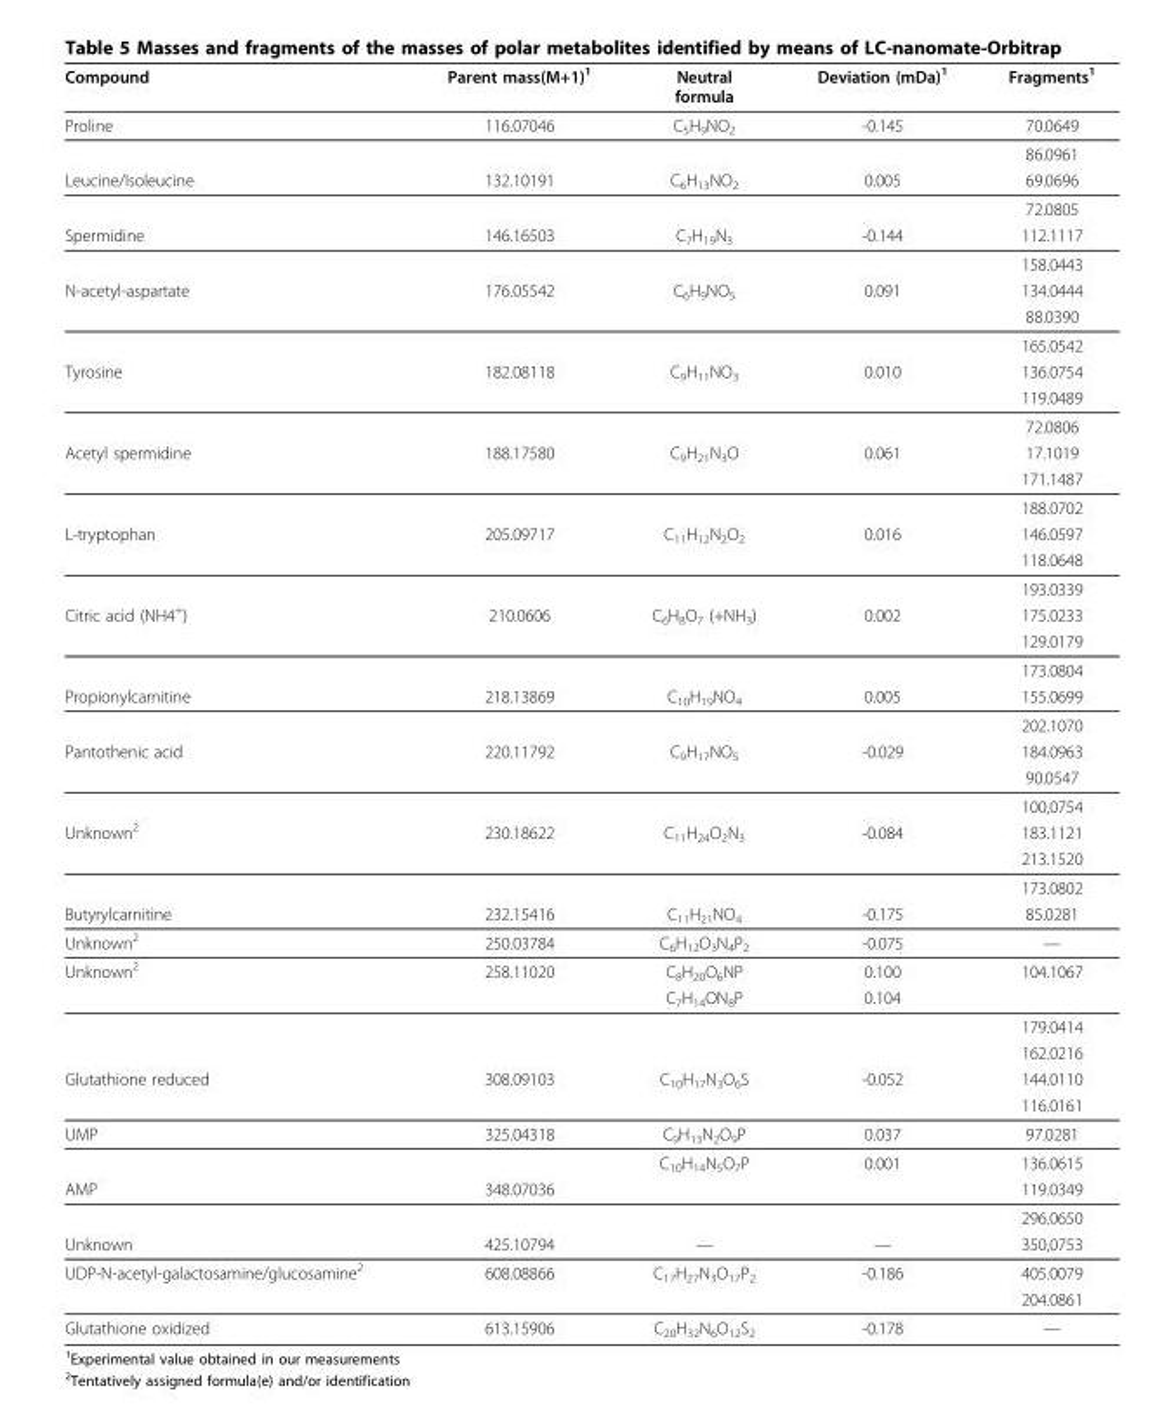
<table><thead><tr><td>Compound</td><td>Parent mass(M+1)<sup>1</sup></td><td>Neutral formula</td><td>Deviation (mDa)<sup>1</sup></td><td>Fragments<sup>1</sup></td></tr></thead><tbody><tr><td rowspan="2">Proline</td><td>116.07046</td><td>C<sub>5</sub>H<sub>9</sub>NO<sub>2</sub></td><td>-0.145</td><td>70.0649</td></tr><tr><td></td><td></td><td></td><td>86.0961</td></tr><tr><td rowspan="2">Leucine/Isoleucine</td><td>132.10191</td><td>C<sub>6</sub>H<sub>13</sub>NO<sub>2</sub></td><td>0.005</td><td>69.0696</td></tr><tr><td></td><td></td><td></td><td>72.0805</td></tr><tr><td rowspan="2">Spermidine</td><td>146.16503</td><td>C<sub>7</sub>H<sub>19</sub>N<sub>3</sub></td><td>-0.144</td><td>112.1117</td></tr><tr><td></td><td></td><td></td><td>158.0443</td></tr><tr><td rowspan="3">N-acetyl-aspartate</td><td>176.05542</td><td>C<sub>6</sub>H<sub>9</sub>NO<sub>5</sub></td><td>0.091</td><td>134.0444</td></tr><tr><td></td><td></td><td></td><td>88.0390</td></tr><tr><td></td><td></td><td></td><td>165.0542</td></tr><tr><td rowspan="3">Tyrosine</td><td>182.08118</td><td>C<sub>9</sub>H<sub>11</sub>NO<sub>3</sub></td><td>0.010</td><td>136.0754</td></tr><tr><td></td><td></td><td></td><td>119.0489</td></tr><tr><td></td><td></td><td></td><td>72.0806</td></tr><tr><td rowspan="3">Acetyl spermidine</td><td>188.17580</td><td>C<sub>9</sub>H<sub>21</sub>N<sub>3</sub>O</td><td>0.061</td><td>17.1019</td></tr><tr><td></td><td></td><td></td><td>171.1487</td></tr><tr><td></td><td></td><td></td><td>188.0702</td></tr><tr><td rowspan="3">L-tryptophan</td><td>205.09717</td><td>C<sub>11</sub>H<sub>12</sub>N<sub>2</sub>O<sub>2</sub></td><td>0.016</td><td>146.0597</td></tr><tr><td></td><td></td><td></td><td>118.0648</td></tr><tr><td></td><td></td><td></td><td>193.0339</td></tr><tr><td rowspan="3">Citric acid (NH4<sup>+</sup>)</td><td>210.0606</td><td>C<sub>6</sub>H<sub>8</sub>O<sub>7</sub> (+NH<sub>3</sub>)</td><td>0.002</td><td>175.0233</td></tr><tr><td></td><td></td><td></td><td>129.0179</td></tr><tr><td></td><td></td><td></td><td>173.0804</td></tr><tr><td rowspan="2">Propionylcarnitine</td><td>218.13869</td><td>C<sub>10</sub>H<sub>19</sub>NO<sub>4</sub></td><td>0.005</td><td>155.0699</td></tr><tr><td></td><td></td><td></td><td>202.1070</td></tr><tr><td rowspan="3">Pantothenic acid</td><td>220.11792</td><td>C<sub>9</sub>H<sub>17</sub>NO<sub>5</sub></td><td>-0.029</td><td>184.0963</td></tr><tr><td></td><td></td><td></td><td>90.0547</td></tr><tr><td></td><td></td><td></td><td>100,0754</td></tr><tr><td rowspan="3">Unknown<sup>2</sup></td><td>230.18622</td><td>C<sub>11</sub>H<sub>24</sub>O<sub>2</sub>N<sub>3</sub></td><td>-0.084</td><td>183.1121</td></tr><tr><td></td><td></td><td></td><td>213.1520</td></tr><tr><td></td><td></td><td></td><td>173.0802</td></tr><tr><td>Butyrylcarnitine</td><td>232.15416</td><td>C<sub>11</sub>H<sub>21</sub>NO<sub>4</sub></td><td>-0.175</td><td>85.0281</td></tr><tr><td>Unknown<sup>2</sup></td><td>250.03784</td><td>C<sub>6</sub>H<sub>12</sub>O<sub>3</sub>N<sub>4</sub>P<sub>2</sub></td><td>-0.075</td><td>—</td></tr><tr><td rowspan="4">Unknown<sup>2</sup></td><td>258.11020</td><td>C<sub>8</sub>H<sub>20</sub>O<sub>6</sub>NP</td><td>0.100</td><td>104.1067</td></tr><tr><td></td><td>C<sub>7</sub>H<sub>14</sub>ON<sub>8</sub>P</td><td>0.104</td><td></td></tr><tr><td></td><td></td><td></td><td>179.0414</td></tr><tr><td></td><td></td><td></td><td>162.0216</td></tr><tr><td rowspan="2">Glutathione reduced</td><td>308.09103</td><td>C<sub>10</sub>H<sub>17</sub>N<sub>3</sub>O<sub>6</sub>S</td><td>-0.052</td><td>144.0110</td></tr><tr><td></td><td></td><td></td><td>116.0161</td></tr><tr><td rowspan="2">UMP</td><td>325.04318</td><td>C<sub>9</sub>H<sub>13</sub>N<sub>2</sub>O<sub>9</sub>P</td><td>0.037</td><td>97.0281</td></tr><tr><td></td><td>C<sub>10</sub>H<sub>14</sub>N<sub>5</sub>O<sub>7</sub>P</td><td>0.001</td><td>136.0615</td></tr><tr><td rowspan="2">AMP</td><td>348.07036</td><td></td><td></td><td>119.0349</td></tr><tr><td></td><td></td><td></td><td>296.0650</td></tr><tr><td>Unknown</td><td>425.10794</td><td>—</td><td>—</td><td>350,0753</td></tr><tr><td rowspan="2">UDP-N-acetyl-galactosamine/glucosamine2</td><td>608.08866</td><td>C17H27N3O17P2</td><td>-0.186</td><td>405.0079</td></tr><tr><td></td><td></td><td></td><td>204.0861</td></tr><tr><td>Glutathione oxidized</td><td>613.15906</td><td>C20H32N6O12S2</td><td>-0.178</td><td>—</td></tr></tbody></table>